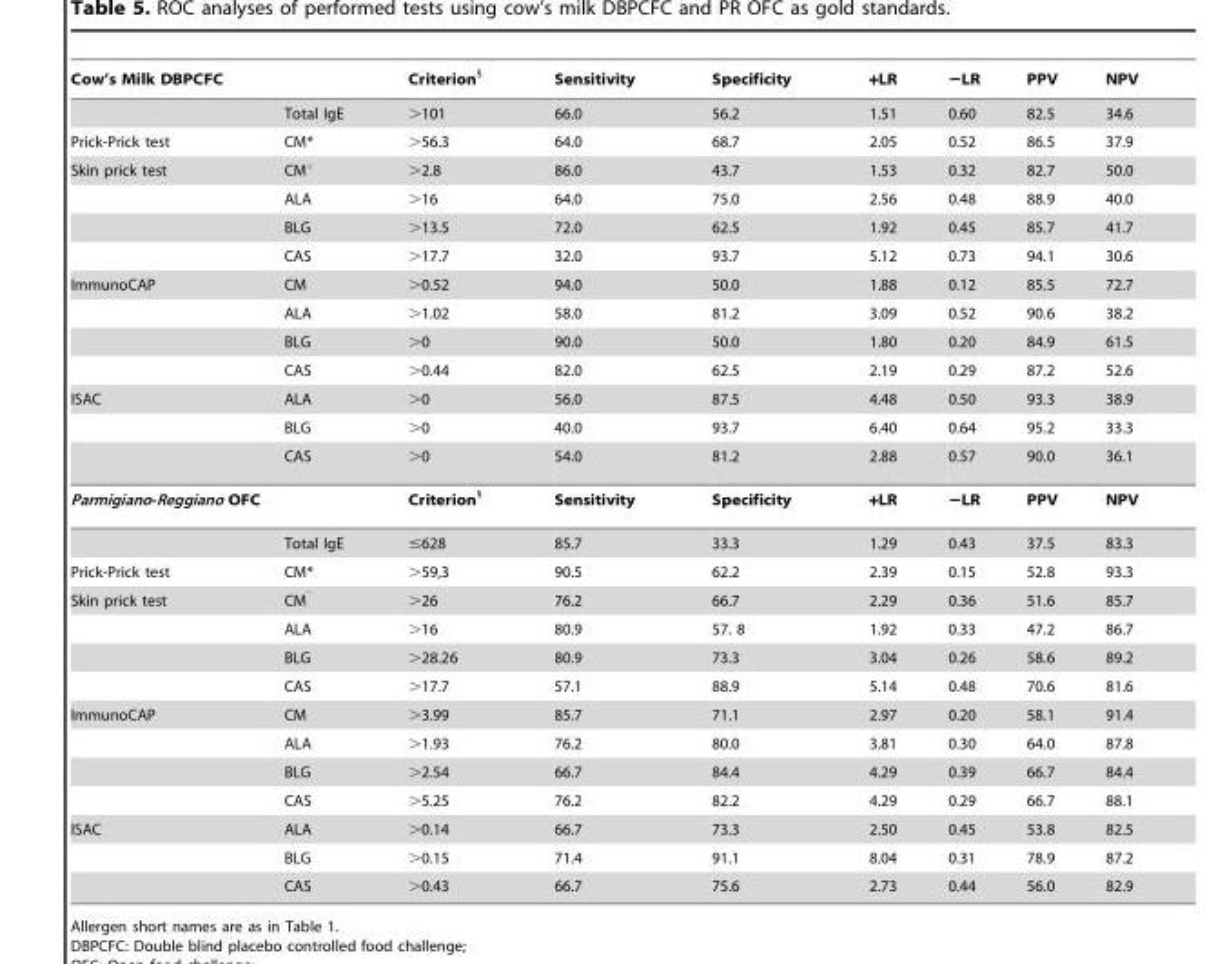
<table><thead><tr><td>Cow’s Milk DBPCFC</td><td></td><td>Criterion§</td><td>Sensitivity</td><td>Specificity</td><td>+LR</td><td>−LR</td><td>PPV</td><td>NPV</td></tr></thead><tbody><tr><td></td><td>Total IgE</td><td>&gt;101</td><td>66.0</td><td>56.2</td><td>1.51</td><td>0.60</td><td>82.5</td><td>34.6</td></tr><tr><td>Prick-Prick test</td><td>CM*</td><td>&gt;56.3</td><td>64.0</td><td>68.7</td><td>2.05</td><td>0.52</td><td>86.5</td><td>37.9</td></tr><tr><td rowspan="4">Skin prick test</td><td>CM°</td><td>&gt;2.8</td><td>86.0</td><td>43.7</td><td>1.53</td><td>0.32</td><td>82.7</td><td>50.0</td></tr><tr><td>ALA</td><td>&gt;16</td><td>64.0</td><td>75.0</td><td>2.56</td><td>0.48</td><td>88.9</td><td>40.0</td></tr><tr><td>BLG</td><td>&gt;13.5</td><td>72.0</td><td>62.5</td><td>1.92</td><td>0.45</td><td>85.7</td><td>41.7</td></tr><tr><td>CAS</td><td>&gt;17.7</td><td>32.0</td><td>93.7</td><td>5.12</td><td>0.73</td><td>94.1</td><td>30.6</td></tr><tr><td rowspan="4">ImmunoCAP</td><td>CM</td><td>&gt;0.52</td><td>94.0</td><td>50.0</td><td>1.88</td><td>0.12</td><td>85.5</td><td>72.7</td></tr><tr><td>ALA</td><td>&gt;1.02</td><td>58.0</td><td>81.2</td><td>3.09</td><td>0.52</td><td>90.6</td><td>38.2</td></tr><tr><td>BLG</td><td>&gt;0</td><td>90.0</td><td>50.0</td><td>1.80</td><td>0.20</td><td>84.9</td><td>61.5</td></tr><tr><td>CAS</td><td>&gt;0.44</td><td>82.0</td><td>62.5</td><td>2.19</td><td>0.29</td><td>87.2</td><td>52.6</td></tr><tr><td rowspan="3">ISAC</td><td>ALA</td><td>&gt;0</td><td>56.0</td><td>87.5</td><td>4.48</td><td>0.50</td><td>93.3</td><td>38.9</td></tr><tr><td>BLG</td><td>&gt;0</td><td>40.0</td><td>93.7</td><td>6.40</td><td>0.64</td><td>95.2</td><td>33.3</td></tr><tr><td>CAS</td><td>&gt;0</td><td>54.0</td><td>81.2</td><td>2.88</td><td>0.57</td><td>90.0</td><td>36.1</td></tr><tr><td rowspan="2">Parmigiano-Reggiano OFC</td><td></td><td>Criterion§</td><td>Sensitivity</td><td>Specificity</td><td>+LR</td><td>−LR</td><td>PPV</td><td>NPV</td></tr><tr><td>Total IgE</td><td>≤628</td><td>85.7</td><td>33.3</td><td>1.29</td><td>0.43</td><td>37.5</td><td>83.3</td></tr><tr><td>Prick-Prick test</td><td>CM*</td><td>&gt;59,3</td><td>90.5</td><td>62.2</td><td>2.39</td><td>0.15</td><td>52.8</td><td>93.3</td></tr><tr><td rowspan="4">Skin prick test</td><td>CM°</td><td>&gt;26</td><td>76.2</td><td>66.7</td><td>2.29</td><td>0.36</td><td>51.6</td><td>85.7</td></tr><tr><td>ALA</td><td>&gt;16</td><td>80.9</td><td>57. 8</td><td>1.92</td><td>0.33</td><td>47.2</td><td>86.7</td></tr><tr><td>BLG</td><td>&gt;28.26</td><td>80.9</td><td>73.3</td><td>3.04</td><td>0.26</td><td>58.6</td><td>89.2</td></tr><tr><td>CAS</td><td>&gt;17.7</td><td>57.1</td><td>88.9</td><td>5.14</td><td>0.48</td><td>70.6</td><td>81.6</td></tr><tr><td rowspan="4">ImmunoCAP</td><td>CM</td><td>&gt;3.99</td><td>85.7</td><td>71.1</td><td>2.97</td><td>0.20</td><td>58.1</td><td>91.4</td></tr><tr><td>ALA</td><td>&gt;1.93</td><td>76.2</td><td>80.0</td><td>3.81</td><td>0.30</td><td>64.0</td><td>87.8</td></tr><tr><td>BLG</td><td>&gt;2.54</td><td>66.7</td><td>84.4</td><td>4.29</td><td>0.39</td><td>66.7</td><td>84.4</td></tr><tr><td>CAS</td><td>&gt;5.25</td><td>76.2</td><td>82.2</td><td>4.29</td><td>0.29</td><td>66.7</td><td>88.1</td></tr><tr><td rowspan="3">ISAC</td><td>ALA</td><td>&gt;0.14</td><td>66.7</td><td>73.3</td><td>2.50</td><td>0.45</td><td>53.8</td><td>82.5</td></tr><tr><td>BLG</td><td>&gt;0.15</td><td>71.4</td><td>91.1</td><td>8.04</td><td>0.31</td><td>78.9</td><td>87.2</td></tr><tr><td>CAS</td><td>&gt;0.43</td><td>66.7</td><td>75.6</td><td>2.73</td><td>0.44</td><td>56.0</td><td>82.9</td></tr></tbody></table>